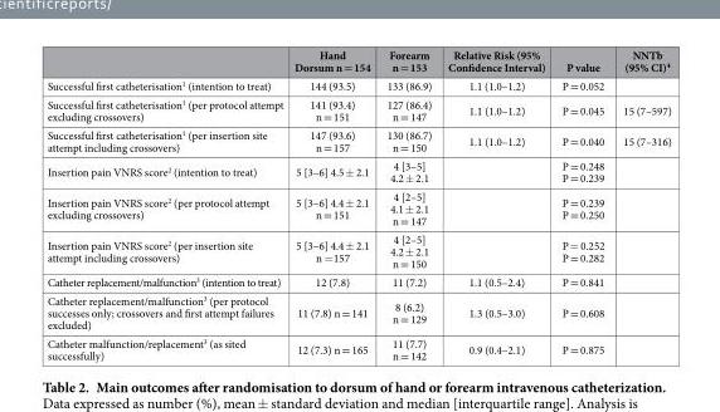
<table><thead><tr><td></td><td>Hand Dorsum n = 154</td><td>Forearm n = 153</td><td>Relative Risk (95% Confidence Interval)</td><td>P value</td><td>NNTb (95% CI)<sup>4</sup></td></tr></thead><tbody><tr><td>Successful first catheterisation<sup>1</sup> (intention to treat)</td><td>144 (93.5)</td><td>133 (86.9)</td><td>1.1 (1.0–1.2)</td><td>P = 0.052</td><td></td></tr><tr><td>Successful first catheterisation<sup>1</sup> (per protocol attempt excluding crossovers)</td><td>141 (93.4) n = 151</td><td>127 (86.4) n = 147</td><td>1.1 (1.0–1.2)</td><td>P = 0.045</td><td>15 (7–597)</td></tr><tr><td>Successful first catheterisation<sup>1</sup> (per insertion site attempt including crossovers)</td><td>147 (93.6) n = 157</td><td>130 (86.7) n = 150</td><td>1.1 (1.0–1.2)</td><td>P = 0.040</td><td>15 (7–316)</td></tr><tr><td>Insertion pain VNRS score<sup>2</sup> (intention to treat)</td><td>5 [3–6] 4.5 ± 2.1</td><td>4 [3–5] 4.2 ± 2.1</td><td></td><td>P = 0.248 P = 0.239</td><td></td></tr><tr><td>Insertion pain VNRS score<sup>2</sup> (per protocol attempt excluding crossovers)</td><td>5 [3–6] 4.4 ± 2.1 n = 151</td><td>4 [2–5] 4.1 ± 2.1 n = 147</td><td></td><td>P = 0.239 P = 0.250</td><td></td></tr><tr><td>Insertion pain VNRS score<sup>2</sup> (per insertion site attempt including crossovers)</td><td>5 [3–6] 4.4 ± 2.1 n = 157</td><td>4 [2–5] 4.2 ± 2.1 n = 150</td><td></td><td>P = 0.252 P = 0.282</td><td></td></tr><tr><td>Catheter replacement/malfunction<sup>3</sup> (intention to treat)</td><td>12 (7.8)</td><td>11 (7.2)</td><td>1.1 (0.5–2.4)</td><td>P = 0.841</td><td></td></tr><tr><td>Catheter replacement/malfunction<sup>3</sup> (per protocol successes only; crossovers and first attempt failures excluded)</td><td>11 (7.8) n = 141</td><td>8 (6.2) n = 129</td><td>1.3 (0.5–3.0)</td><td>P = 0.608</td><td></td></tr><tr><td>Catheter malfunction/replacement<sup>3</sup> (as sited successfully)</td><td>12 (7.3) n = 165</td><td>11 (7.7) n = 142</td><td>0.9 (0.4–2.1)</td><td>P = 0.875</td><td></td></tr></tbody></table>